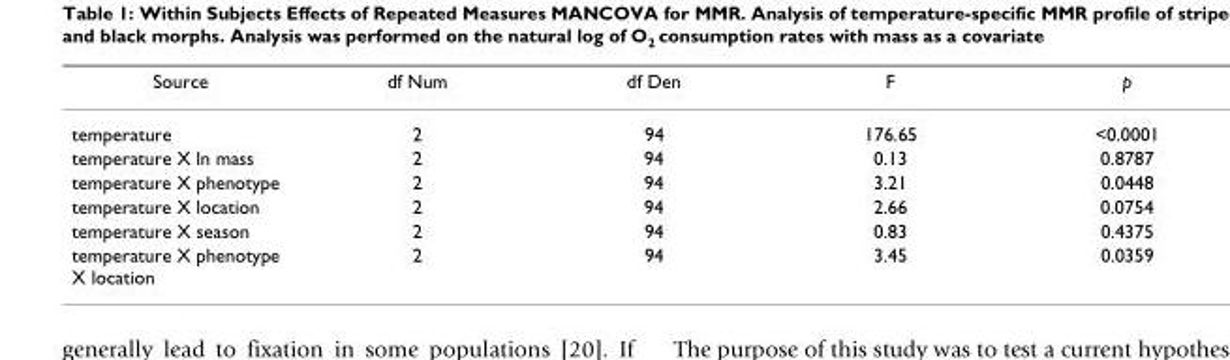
<table><thead><tr><td>Source</td><td>df Num</td><td>df Den</td><td>F</td><td>p</td></tr></thead><tbody><tr><td>temperature</td><td>2</td><td>94</td><td>176.65</td><td>&lt;0.0001</td></tr><tr><td>temperature X ln mass</td><td>2</td><td>94</td><td>0.13</td><td>0.8787</td></tr><tr><td>temperature X phenotype</td><td>2</td><td>94</td><td>3.21</td><td>0.0448</td></tr><tr><td>temperature X location</td><td>2</td><td>94</td><td>2.66</td><td>0.0754</td></tr><tr><td>temperature X season</td><td>2</td><td>94</td><td>0.83</td><td>0.4375</td></tr><tr><td>temperature X phenotype X location</td><td>2</td><td>94</td><td>3.45</td><td>0.0359</td></tr></tbody></table>